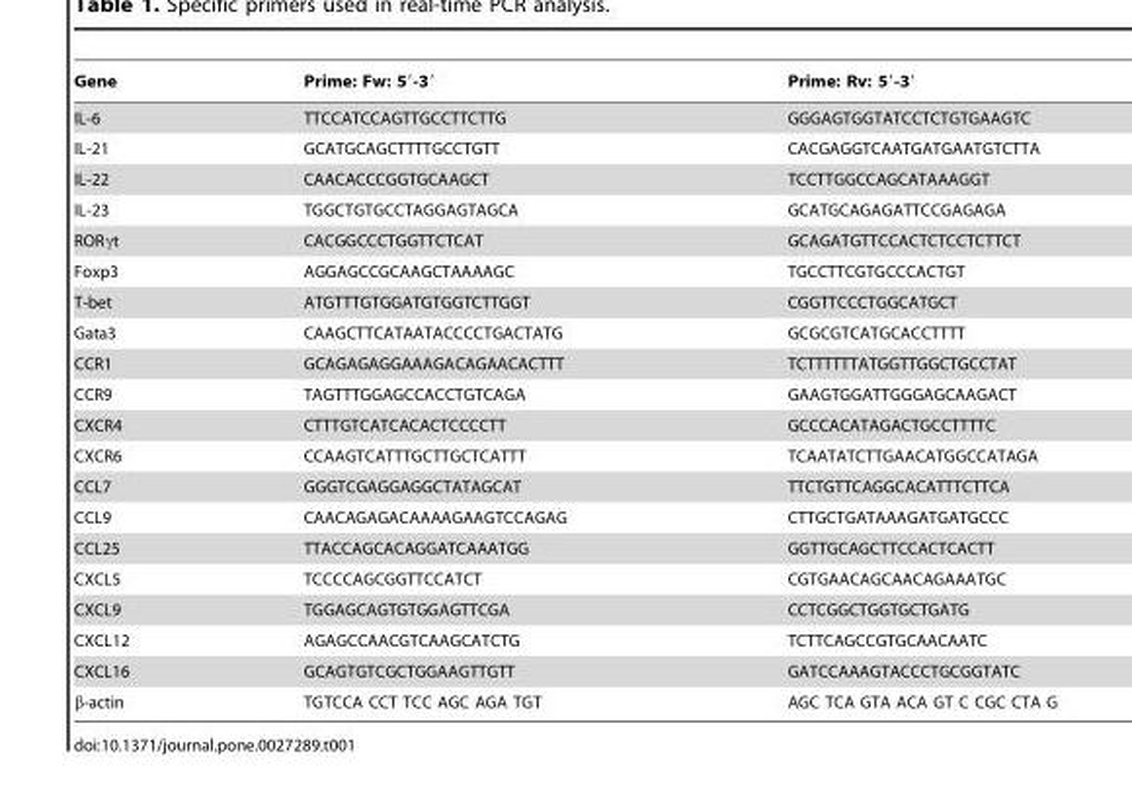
<table><thead><tr><td>Gene</td><td>Prime: Fw: 5′-3′</td><td>Prime: Rv: 5′-3′</td></tr></thead><tbody><tr><td>IL-6</td><td>TTCCATCCAGTTGCCTTCTTG</td><td>GGGAGTGGTATCCTCTGTGAAGTC</td></tr><tr><td>IL-21</td><td>GCATGCAGCTTTTGCCTGTT</td><td>CACGAGGTCAATGATGAATGTCTTA</td></tr><tr><td>IL-22</td><td>CAACACCCGGTGCAAGCT</td><td>TCCTTGGCCAGCATAAAGGT</td></tr><tr><td>IL-23</td><td>TGGCTGTGCCTAGGAGTAGCA</td><td>GCATGCAGAGATTCCGAGAGA</td></tr><tr><td>RORγt</td><td>CACGGCCCTGGTTCTCAT</td><td>GCAGATGTTCCACTCTCCTCTTCT</td></tr><tr><td>Foxp3</td><td>AGGAGCCGCAAGCTAAAAGC</td><td>TGCCTTCGTGCCCACTGT</td></tr><tr><td>T-bet</td><td>ATGTTTGTGGATGTGGTCTTGGT</td><td>CGGTTCCCTGGCATGCT</td></tr><tr><td>Gata3</td><td>CAAGCTTCATAATACCCCTGACTATG</td><td>GCGCGTCATGCACCTTTT</td></tr><tr><td>CCR1</td><td>GCAGAGAGGAAAGACAGAACACTTT</td><td>TCTTTTTTATGGTTGGCTGCCTAT</td></tr><tr><td>CCR9</td><td>TAGTTTGGAGCCACCTGTCAGA</td><td>GAAGTGGATTGGGAGCAAGACT</td></tr><tr><td>CXCR4</td><td>CTTTGTCATCACACTCCCCTT</td><td>GCCCACATAGACTGCCTTTTC</td></tr><tr><td>CXCR6</td><td>CCAAGTCATTTGCTTGCTCATTT</td><td>TCAATATCTTGAACATGGCCATAGA</td></tr><tr><td>CCL7</td><td>GGGTCGAGGAGGCTATAGCAT</td><td>TTCTGTTCAGGCACATTTCTTCA</td></tr><tr><td>CCL9</td><td>CAACAGAGACAAAAGAAGTCCAGAG</td><td>CTTGCTGATAAAGATGATGCCC</td></tr><tr><td>CCL25</td><td>TTACCAGCACAGGATCAAATGG</td><td>GGTTGCAGCTTCCACTCACTT</td></tr><tr><td>CXCL5</td><td>TCCCCAGCGGTTCCATCT</td><td>CGTGAACAGCAACAGAAATGC</td></tr><tr><td>CXCL9</td><td>TGGAGCAGTGTGGAGTTCGA</td><td>CCTCGGCTGGTGCTGATG</td></tr><tr><td>CXCL12</td><td>AGAGCCAACGTCAAGCATCTG</td><td>TCTTCAGCCGTGCAACAATC</td></tr><tr><td>CXCL16</td><td>GCAGTGTCGCTGGAAGTTGTT</td><td>GATCCAAAGTACCCTGCGGTATC</td></tr><tr><td>β-actin</td><td>TGTCCA CCT TCC AGC AGA TGT</td><td>AGC TCA GTA ACA GT C CGC CTA G</td></tr></tbody></table>